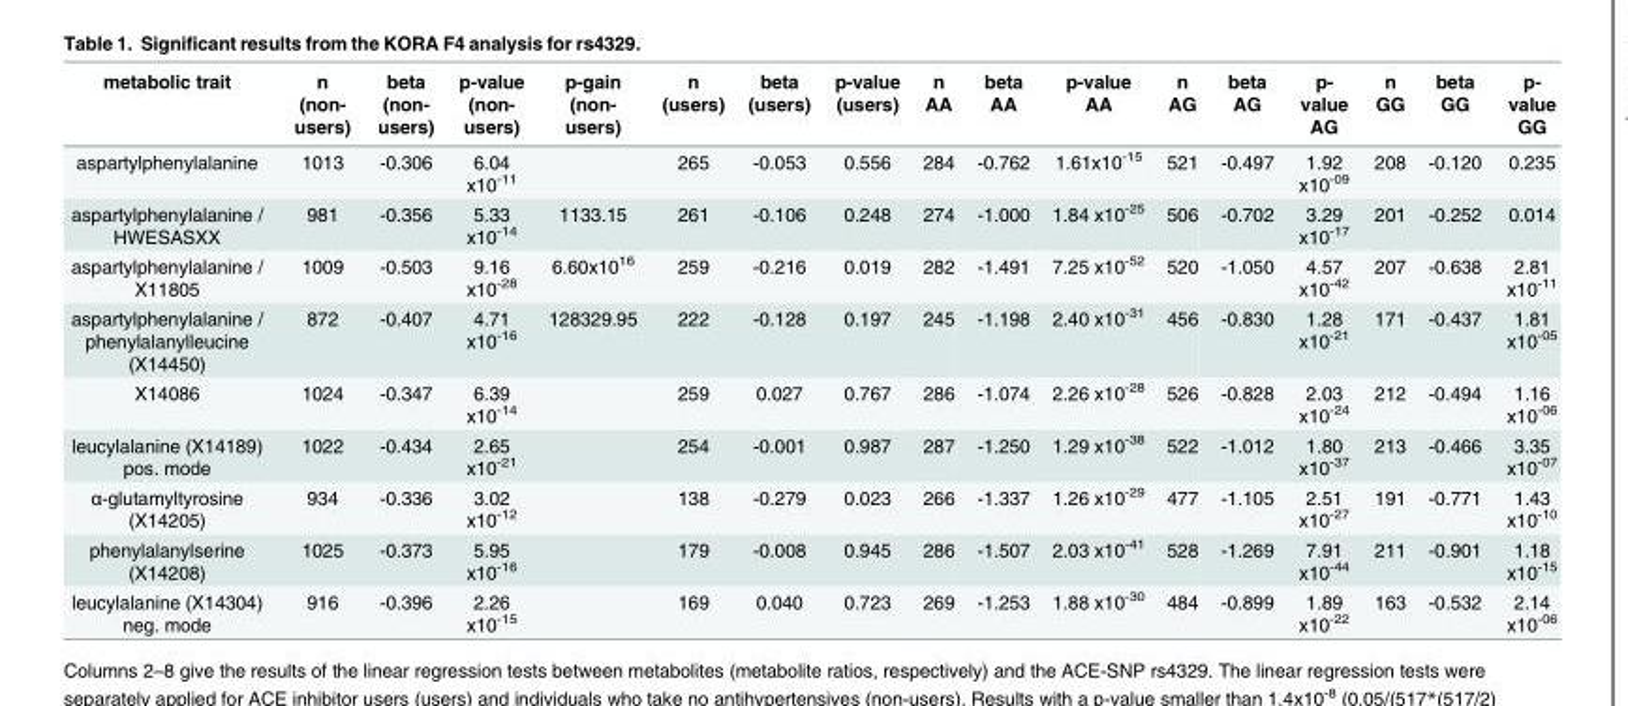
<table><thead><tr><td>metabolic trait</td><td>n (non- users)</td><td>beta (non- users)</td><td>p-value (non- users)</td><td>p-gain (non- users)</td><td>n (users)</td><td>beta (users)</td><td>p-value (users)</td><td>n AA</td><td>beta AA</td><td>p-value AA</td><td>n AG</td><td>beta AG</td><td>p- value AG</td><td>n GG</td><td>beta GG</td><td>p- value GG</td></tr></thead><tbody><tr><td>aspartylphenylalanine</td><td>1013</td><td>-0.306</td><td>6.04 x10<sup>-11</sup></td><td></td><td>265</td><td>-0.053</td><td>0.556</td><td>284</td><td>-0.762</td><td>1.61x10<sup>-15</sup></td><td>521</td><td>-0.497</td><td>1.92 x10<sup>-09</sup></td><td>208</td><td>-0.120</td><td>0.235</td></tr><tr><td>aspartylphenylalanine / HWESASXX</td><td>981</td><td>-0.356</td><td>5.33 x10<sup>-14</sup></td><td>1133.15</td><td>261</td><td>-0.106</td><td>0.248</td><td>274</td><td>-1.000</td><td>1.84 x10<sup>-25</sup></td><td>506</td><td>-0.702</td><td>3.29 x10<sup>-17</sup></td><td>201</td><td>-0.252</td><td>0.014</td></tr><tr><td>aspartylphenylalanine / X11805</td><td>1009</td><td>-0.503</td><td>9.16 x10<sup>-28</sup></td><td>6.60x10<sup>16</sup></td><td>259</td><td>-0.216</td><td>0.019</td><td>282</td><td>-1.491</td><td>7.25 x10<sup>-52</sup></td><td>520</td><td>-1.050</td><td>4.57 x10<sup>-42</sup></td><td>207</td><td>-0.638</td><td>2.81 x10<sup>-11</sup></td></tr><tr><td>aspartylphenylalanine / phenylalanylleucine (X14450)</td><td>872</td><td>-0.407</td><td>4.71 x10<sup>-16</sup></td><td>128329.95</td><td>222</td><td>-0.128</td><td>0.197</td><td>245</td><td>-1.198</td><td>2.40 x10<sup>-31</sup></td><td>456</td><td>-0.830</td><td>1.28 x10<sup>-21</sup></td><td>171</td><td>-0.437</td><td>1.81 x10<sup>-05</sup></td></tr><tr><td>X14086</td><td>1024</td><td>-0.347</td><td>6.39 x10<sup>-14</sup></td><td></td><td>259</td><td>0.027</td><td>0.767</td><td>286</td><td>-1.074</td><td>2.26 x10<sup>-28</sup></td><td>526</td><td>-0.828</td><td>2.03 x10<sup>-24</sup></td><td>212</td><td>-0.494</td><td>1.16 x10<sup>-06</sup></td></tr><tr><td>leucylalanine (X14189) pos. mode</td><td>1022</td><td>-0.434</td><td>2.65 x10<sup>-21</sup></td><td></td><td>254</td><td>-0.001</td><td>0.987</td><td>287</td><td>-1.250</td><td>1.29 x10<sup>-38</sup></td><td>522</td><td>-1.012</td><td>1.80 x10<sup>-37</sup></td><td>213</td><td>-0.466</td><td>3.35 x10<sup>-07</sup></td></tr><tr><td>α-glutamyltyrosine (X14205)</td><td>934</td><td>-0.336</td><td>3.02 x10<sup>-12</sup></td><td></td><td>138</td><td>-0.279</td><td>0.023</td><td>266</td><td>-1.337</td><td>1.26 x10<sup>-29</sup></td><td>477</td><td>-1.105</td><td>2.51 x10<sup>-27</sup></td><td>191</td><td>-0.771</td><td>1.43 x10<sup>-10</sup></td></tr><tr><td>phenylalanylserine (X14208)</td><td>1025</td><td>-0.373</td><td>5.95 x10<sup>-16</sup></td><td></td><td>179</td><td>-0.008</td><td>0.945</td><td>286</td><td>-1.507</td><td>2.03 x10<sup>-41</sup></td><td>528</td><td>-1.269</td><td>7.91 x10<sup>-44</sup></td><td>211</td><td>-0.901</td><td>1.18 x10<sup>-15</sup></td></tr><tr><td>leucylalanine (X14304) neg. mode</td><td>916</td><td>-0.396</td><td>2.26 x10<sup>-15</sup></td><td></td><td>169</td><td>0.040</td><td>0.723</td><td>269</td><td>-1.253</td><td>1.88 x10<sup>-30</sup></td><td>484</td><td>-0.899</td><td>1.89 x10<sup>-22</sup></td><td>163</td><td>-0.532</td><td>2.14 x10<sup>-06</sup></td></tr></tbody></table>